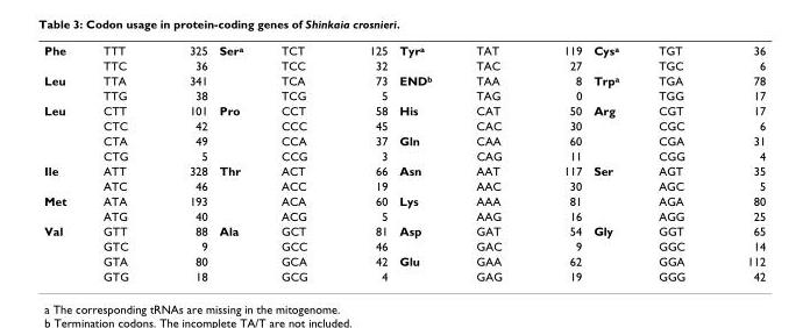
<table><tbody><tr><td rowspan="2">Phe</td><td>TTT</td><td>325</td><td>Ser<sup>a</sup></td><td>TCT</td><td>125</td><td>Tyr<sup>a</sup></td><td>TAT</td><td>119</td><td>Cys<sup>a</sup></td><td>TGT</td><td>36</td></tr><tr><td>TTC</td><td>36</td><td></td><td>TCC</td><td>32</td><td></td><td>TAC</td><td>27</td><td></td><td>TGC</td><td>6</td></tr><tr><td rowspan="2">Leu</td><td>TTA</td><td>341</td><td></td><td>TCA</td><td>73</td><td>END<sup>b</sup></td><td>TAA</td><td>8</td><td>Trp<sup>a</sup></td><td>TGA</td><td>78</td></tr><tr><td>TTG</td><td>38</td><td></td><td>TCG</td><td>5</td><td></td><td>TAG</td><td>0</td><td></td><td>TGG</td><td>17</td></tr><tr><td rowspan="4">Leu</td><td>CTT</td><td>101</td><td>Pro</td><td>CCT</td><td>58</td><td>His</td><td>CAT</td><td>50</td><td>Arg</td><td>CGT</td><td>17</td></tr><tr><td>CTC</td><td>42</td><td></td><td>CCC</td><td>45</td><td></td><td>CAC</td><td>30</td><td></td><td>CGC</td><td>6</td></tr><tr><td>CTA</td><td>49</td><td></td><td>CCA</td><td>37</td><td>Gln</td><td>CAA</td><td>60</td><td></td><td>CGA</td><td>31</td></tr><tr><td>CTG</td><td>5</td><td></td><td>CCG</td><td>3</td><td></td><td>CAG</td><td>11</td><td></td><td>CGG</td><td>4</td></tr><tr><td rowspan="2">Ile</td><td>ATT</td><td>328</td><td>Thr</td><td>ACT</td><td>66</td><td>Asn</td><td>AAT</td><td>117</td><td>Ser</td><td>AGT</td><td>35</td></tr><tr><td>ATC</td><td>46</td><td></td><td>ACC</td><td>19</td><td></td><td>AAC</td><td>30</td><td></td><td>AGC</td><td>5</td></tr><tr><td rowspan="2">Met</td><td>ATA</td><td>193</td><td></td><td>ACA</td><td>60</td><td>Lys</td><td>AAA</td><td>81</td><td></td><td>AGA</td><td>80</td></tr><tr><td>ATG</td><td>40</td><td></td><td>ACG</td><td>5</td><td></td><td>AAG</td><td>16</td><td></td><td>AGG</td><td>25</td></tr><tr><td rowspan="4">Val</td><td>GTT</td><td>88</td><td>Ala</td><td>GCT</td><td>81</td><td>Asp</td><td>GAT</td><td>54</td><td>Gly</td><td>GGT</td><td>65</td></tr><tr><td>GTC</td><td>9</td><td></td><td>GCC</td><td>46</td><td></td><td>GAC</td><td>9</td><td></td><td>GGC</td><td>14</td></tr><tr><td>GTA</td><td>80</td><td></td><td>GCA</td><td>42</td><td>Glu</td><td>GAA</td><td>62</td><td></td><td>GGA</td><td>112</td></tr><tr><td>GTG</td><td>18</td><td></td><td>GCG</td><td>4</td><td></td><td>GAG</td><td>19</td><td></td><td>GGG</td><td>42</td></tr></tbody></table>